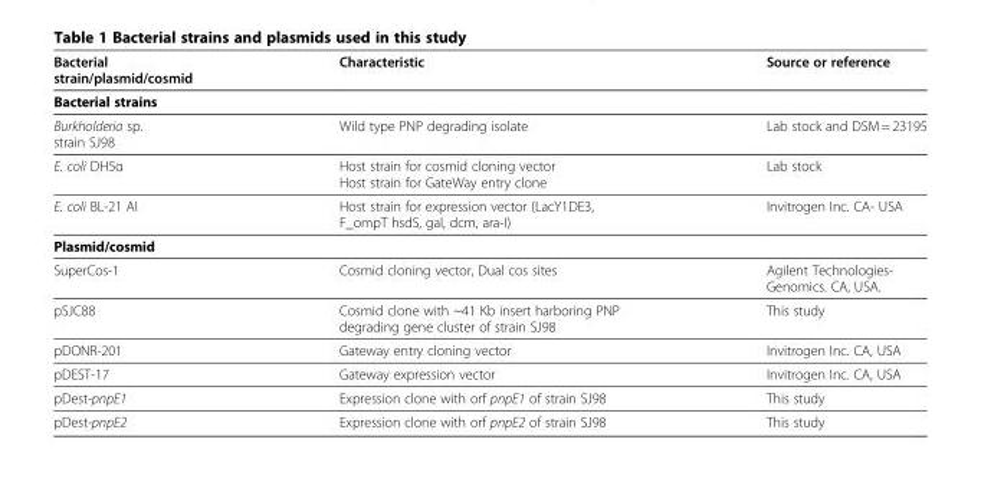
<table><thead><tr><td>Bacterial strain/plasmid/cosmid</td><td>Characteristic</td><td>Source or reference</td></tr></thead><tbody><tr><td colspan="3">Bacterial strains</td></tr><tr><td>Burkholderia sp. strain SJ98</td><td>Wild type PNP degrading isolate</td><td>Lab stock and DSM = 23195</td></tr><tr><td>E. coli DH5α</td><td>Host strain for cosmid cloning vector Host strain for GateWay entry clone</td><td>Lab stock</td></tr><tr><td>E. coli BL-21 AI</td><td>Host strain for expression vector (LacY1DE3, F_ompT hsdS, gal, dcm, ara-I)</td><td>Invitrogen Inc. CA- USA</td></tr><tr><td colspan="3">Plasmid/cosmid</td></tr><tr><td>SuperCos-1</td><td>Cosmid cloning vector, Dual cos sites</td><td>Agilent Technologies- Genomics. CA, USA.</td></tr><tr><td>pSJC88</td><td>Cosmid clone with ~41 Kb insert harboring PNP degrading gene cluster of strain SJ98</td><td>This study</td></tr><tr><td>pDONR-201</td><td>Gateway entry cloning vector</td><td>Invitrogen Inc. CA, USA</td></tr><tr><td>pDEST-17</td><td>Gateway expression vector</td><td>Invitrogen Inc. CA, USA</td></tr><tr><td>pDest-pnpE1</td><td>Expression clone with orf pnpE1 of strain SJ98</td><td>This study</td></tr><tr><td>pDest-pnpE2</td><td>Expression clone with orf pnpE2 of strain SJ98</td><td>This study</td></tr></tbody></table>